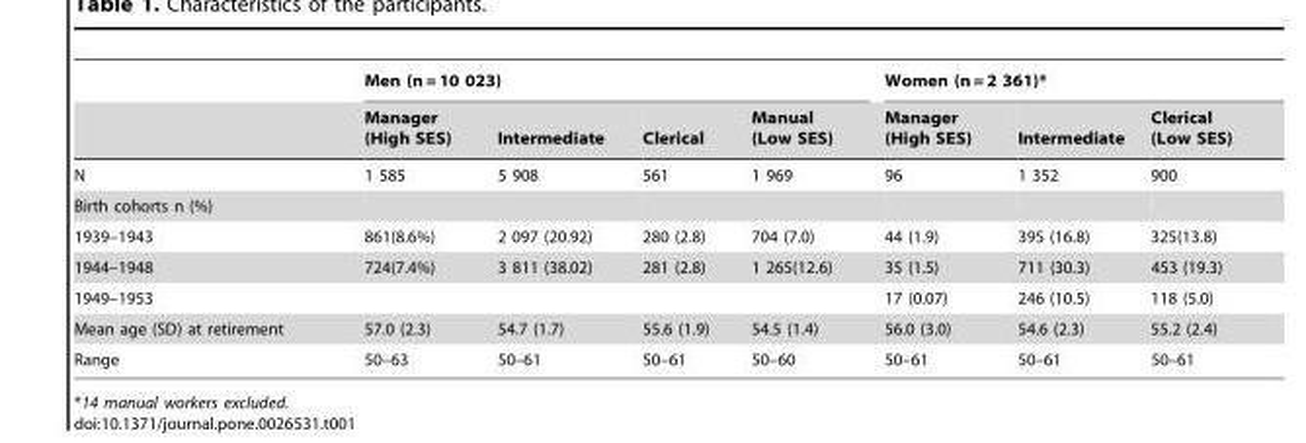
<table><thead><tr><td rowspan="2"></td><td colspan="4">Men (n = 10 023)</td><td colspan="3">Women (n = 2 361)*</td></tr><tr><td>Manager (High SES)</td><td>Intermediate</td><td>Clerical</td><td>Manual (Low SES)</td><td>Manager (High SES)</td><td>Intermediate</td><td>Clerical (Low SES)</td></tr></thead><tbody><tr><td>N</td><td>1 585</td><td>5 908</td><td>561</td><td>1 969</td><td>96</td><td>1 352</td><td>900</td></tr><tr><td colspan="8">Birth cohorts n (%)</td></tr><tr><td>1939–1943</td><td>861(8.6%)</td><td>2 097 (20.92)</td><td>280 (2.8)</td><td>704 (7.0)</td><td>44 (1.9)</td><td>395 (16.8)</td><td>325(13.8)</td></tr><tr><td>1944–1948</td><td>724(7.4%)</td><td>3 811 (38.02)</td><td>281 (2.8)</td><td>1 265(12.6)</td><td>35 (1.5)</td><td>711 (30.3)</td><td>453 (19.3)</td></tr><tr><td>1949–1953</td><td></td><td></td><td></td><td></td><td>17 (0.07)</td><td>246 (10.5)</td><td>118 (5.0)</td></tr><tr><td>Mean age (SD) at retirement</td><td>57.0 (2.3)</td><td>54.7 (1.7)</td><td>55.6 (1.9)</td><td>54.5 (1.4)</td><td>56.0 (3.0)</td><td>54.6 (2.3)</td><td>55.2 (2.4)</td></tr><tr><td>Range</td><td>50–63</td><td>50–61</td><td>50–61</td><td>50–60</td><td>50–61</td><td>50–61</td><td>50–61</td></tr></tbody></table>